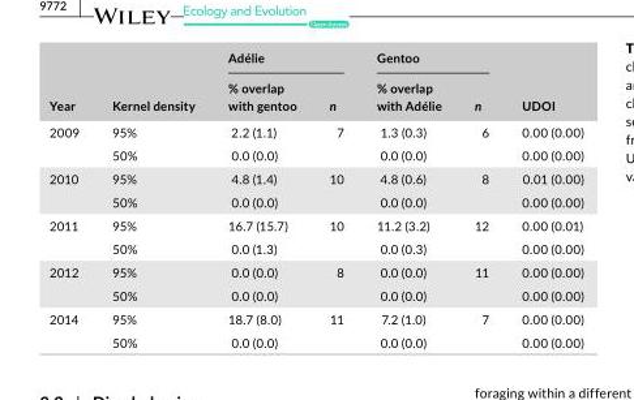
<table><thead><tr><td rowspan="2">Year</td><td rowspan="2">Kernel density</td><td colspan="2">Adélie</td><td colspan="2">Gentoo</td><td rowspan="2">UDOI</td></tr><tr><td>% overlap with gentoo</td><td>n</td><td>% overlap with Adélie</td><td>n</td></tr></thead><tbody><tr><td rowspan="2">2009</td><td>95%</td><td>2.2 (1.1)</td><td rowspan="2">7</td><td>1.3 (0.3)</td><td rowspan="2">6</td><td>0.00 (0.00)</td></tr><tr><td>50%</td><td>0.0 (0.0)</td><td>0.0 (0.0)</td><td>0.00 (0.00)</td></tr><tr><td rowspan="2">2010</td><td>95%</td><td>4.8 (1.4)</td><td rowspan="2">10</td><td>4.8 (0.6)</td><td rowspan="2">8</td><td>0.01 (0.00)</td></tr><tr><td>50%</td><td>0.0 (0.0)</td><td>0.0 (0.0)</td><td>0.00 (0.00)</td></tr><tr><td rowspan="2">2011</td><td>95%</td><td>16.7 (15.7)</td><td rowspan="2">10</td><td>11.2 (3.2)</td><td rowspan="2">12</td><td>0.00 (0.01)</td></tr><tr><td>50%</td><td>0.0 (1.3)</td><td>0.0 (0.3)</td><td>0.00 (0.00)</td></tr><tr><td rowspan="2">2012</td><td>95%</td><td>0.0 (0.0)</td><td rowspan="2">8</td><td>0.0 (0.0)</td><td rowspan="2">11</td><td>0.00 (0.00)</td></tr><tr><td>50%</td><td>0.0 (0.0)</td><td>0.0 (0.0)</td><td>0.00 (0.00)</td></tr><tr><td rowspan="2">2014</td><td>95%</td><td>18.7 (8.0)</td><td rowspan="2">11</td><td>7.2 (1.0)</td><td rowspan="2">7</td><td>0.00 (0.00)</td></tr><tr><td>50%</td><td>0.0 (0.0)</td><td>0.0 (0.0)</td><td>0.00 (0.00)</td></tr></tbody></table>